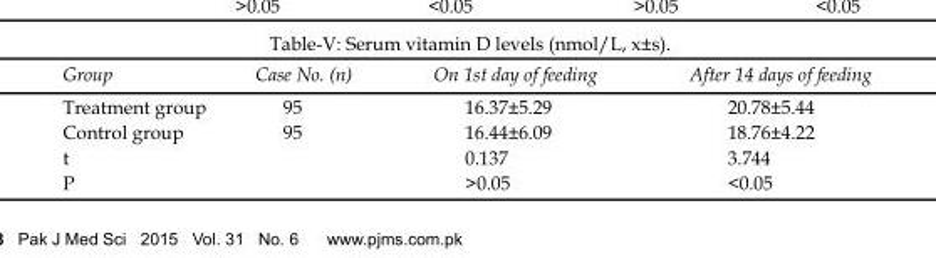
<table><thead><tr><td>Group</td><td>Case No. (n)</td><td>On 1st day of feeding</td><td>After 14 days of feeding</td></tr></thead><tbody><tr><td>Treatment group</td><td>95</td><td>16.37±5.29</td><td>20.78±5.44</td></tr><tr><td>Control group</td><td>95</td><td>16.44±6.09</td><td>18.76±4.22</td></tr><tr><td>t</td><td></td><td>0.137</td><td>3.744</td></tr><tr><td>P</td><td></td><td>&gt;0.05</td><td>&lt;0.05</td></tr></tbody></table>